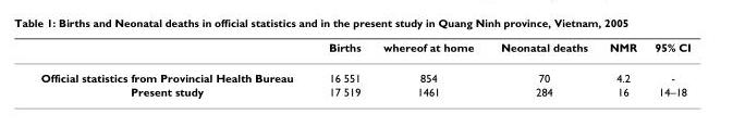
<table><thead><tr><td></td><td>Births</td><td>whereof at home</td><td>Neonatal deaths</td><td>NMR</td><td>95% CI</td></tr></thead><tbody><tr><td>Official statistics from Provincial Health Bureau</td><td>16 551</td><td>854</td><td>70</td><td>4.2</td><td>-</td></tr><tr><td>Present study</td><td>17 519</td><td>1461</td><td>284</td><td>16</td><td>14–18</td></tr></tbody></table>